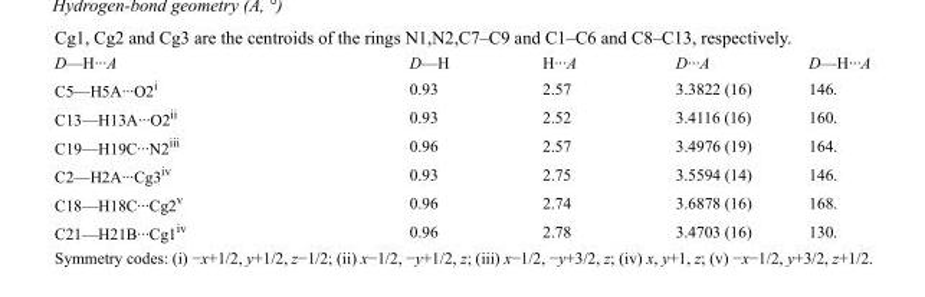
<table><tbody><tr><td>D—H···A</td><td>D—H</td><td>H···A</td><td>D···A</td><td>D—H···A</td></tr><tr><td>C5—H5A···O2<sup>i</sup></td><td>0.93</td><td>2.57</td><td>3.3822 (16)</td><td>146.</td></tr><tr><td>C13—H13A···O2<sup>ii</sup></td><td>0.93</td><td>2.52</td><td>3.4116 (16)</td><td>160.</td></tr><tr><td>C19—H19C···N2<sup>iii</sup></td><td>0.96</td><td>2.57</td><td>3.4976 (19)</td><td>164.</td></tr><tr><td>C2—H2A···Cg3<sup>iv</sup></td><td>0.93</td><td>2.75</td><td>3.5594 (14)</td><td>146.</td></tr><tr><td>C18—H18C···Cg2<sup>v</sup></td><td>0.96</td><td>2.74</td><td>3.6878 (16)</td><td>168.</td></tr><tr><td>C21—H21B···Cg1<sup>iv</sup></td><td>0.96</td><td>2.78</td><td>3.4703 (16)</td><td>130.</td></tr></tbody></table>